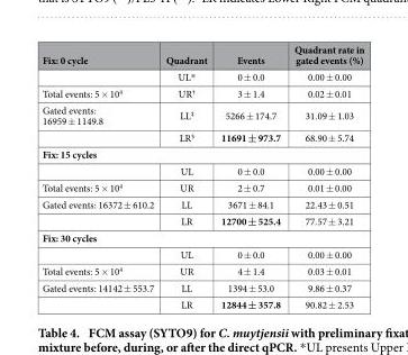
<table><thead><tr><td>Fix: 0 cycle</td><td>Quadrant</td><td>Events</td><td>Quadrant rate in gated events (%)</td></tr></thead><tbody><tr><td></td><td>UL*</td><td>0 ± 0.0</td><td>0.00 ± 0.00</td></tr><tr><td>Total events: 5 × 10<sup>4</sup></td><td>UR†</td><td>3 ± 1.4</td><td>0.02 ± 0.01</td></tr><tr><td rowspan="2">Gated events: 16959 ± 1149.8</td><td>LL‡</td><td>5266 ± 174.7</td><td>31.09 ± 1.03</td></tr><tr><td>LR§</td><td>11691 ± 973.7</td><td>68.90 ± 5.74</td></tr><tr><td colspan="4">Fix: 15 cycles</td></tr><tr><td></td><td>UL</td><td>0 ± 0.0</td><td>0.00 ± 0.00</td></tr><tr><td>Total events: 5 × 10<sup>4</sup></td><td>UR</td><td>2 ± 0.7</td><td>0.01 ± 0.00</td></tr><tr><td rowspan="2">Gated events: 16372 ± 610.2</td><td>LL</td><td>3671 ± 84.1</td><td>22.43 ± 0.51</td></tr><tr><td>LR</td><td>12700 ± 525.4</td><td>77.57 ± 3.21</td></tr><tr><td colspan="4">Fix: 30 cycles</td></tr><tr><td></td><td>UL</td><td>0 ± 0.0</td><td>0.00 ± 0.00</td></tr><tr><td>Total events: 5 × 10<sup>4</sup></td><td>UR</td><td>4 ± 1.4</td><td>0.03 ± 0.01</td></tr><tr><td rowspan="2">Gated events: 14142 ± 553.7</td><td>LL</td><td>1394 ± 53.0</td><td>9.86 ± 0.37</td></tr><tr><td>LR</td><td>12844 ± 357.8</td><td>90.82 ± 2.53</td></tr></tbody></table>